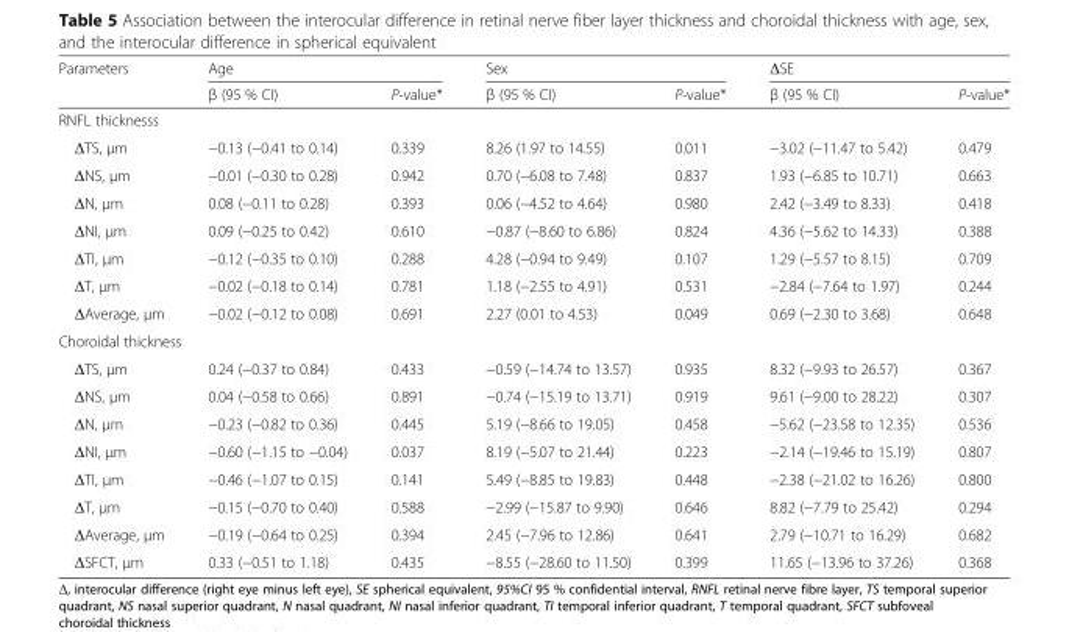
<table><thead><tr><td rowspan="2">Parameters</td><td colspan="2">Age</td><td colspan="2">Sex</td><td colspan="2">ΔSE</td></tr><tr><td>β (95 % CI)</td><td>P-value*</td><td>β (95 % CI)</td><td>P-value*</td><td>β (95 % CI)</td><td>P-value*</td></tr></thead><tbody><tr><td colspan="7">RNFL thicknesss</td></tr><tr><td>ΔTS, μm</td><td>−0.13 (−0.41 to 0.14)</td><td>0.339</td><td>8.26 (1.97 to 14.55)</td><td>0.011</td><td>−3.02 (−11.47 to 5.42)</td><td>0.479</td></tr><tr><td>ΔNS, μm</td><td>−0.01 (−0.30 to 0.28)</td><td>0.942</td><td>0.70 (−6.08 to 7.48)</td><td>0.837</td><td>1.93 (−6.85 to 10.71)</td><td>0.663</td></tr><tr><td>ΔN, μm</td><td>0.08 (−0.11 to 0.28)</td><td>0.393</td><td>0.06 (−4.52 to 4.64)</td><td>0.980</td><td>2.42 (−3.49 to 8.33)</td><td>0.418</td></tr><tr><td>ΔNI, μm</td><td>0.09 (−0.25 to 0.42)</td><td>0.610</td><td>−0.87 (−8.60 to 6.86)</td><td>0.824</td><td>4.36 (−5.62 to 14.33)</td><td>0.388</td></tr><tr><td>ΔTI, μm</td><td>−0.12 (−0.35 to 0.10)</td><td>0.288</td><td>4.28 (−0.94 to 9.49)</td><td>0.107</td><td>1.29 (−5.57 to 8.15)</td><td>0.709</td></tr><tr><td>ΔT, μm</td><td>−0.02 (−0.18 to 0.14)</td><td>0.781</td><td>1.18 (−2.55 to 4.91)</td><td>0.531</td><td>−2.84 (−7.64 to 1.97)</td><td>0.244</td></tr><tr><td>ΔAverage, μm</td><td>−0.02 (−0.12 to 0.08)</td><td>0.691</td><td>2.27 (0.01 to 4.53)</td><td>0.049</td><td>0.69 (−2.30 to 3.68)</td><td>0.648</td></tr><tr><td colspan="7">Choroidal thickness</td></tr><tr><td>ΔTS, μm</td><td>0.24 (−0.37 to 0.84)</td><td>0.433</td><td>−0.59 (−14.74 to 13.57)</td><td>0.935</td><td>8.32 (−9.93 to 26.57)</td><td>0.367</td></tr><tr><td>ΔNS, μm</td><td>0.04 (−0.58 to 0.66)</td><td>0.891</td><td>−0.74 (−15.19 to 13.71)</td><td>0.919</td><td>9.61 (−9.00 to 28.22)</td><td>0.307</td></tr><tr><td>ΔN, μm</td><td>−0.23 (−0.82 to 0.36)</td><td>0.445</td><td>5.19 (−8.66 to 19.05)</td><td>0.458</td><td>−5.62 (−23.58 to 12.35)</td><td>0.536</td></tr><tr><td>ΔNI, μm</td><td>−0.60 (−1.15 to −0.04)</td><td>0.037</td><td>8.19 (−5.07 to 21.44)</td><td>0.223</td><td>−2.14 (−19.46 to 15.19)</td><td>0.807</td></tr><tr><td>ΔTI, μm</td><td>−0.46 (−1.07 to 0.15)</td><td>0.141</td><td>5.49 (−8.85 to 19.83)</td><td>0.448</td><td>−2.38 (−21.02 to 16.26)</td><td>0.800</td></tr><tr><td>ΔT, μm</td><td>−0.15 (−0.70 to 0.40)</td><td>0.588</td><td>−2.99 (−15.87 to 9.90)</td><td>0.646</td><td>8.82 (−7.79 to 25.42)</td><td>0.294</td></tr><tr><td>ΔAverage, μm</td><td>−0.19 (−0.64 to 0.25)</td><td>0.394</td><td>2.45 (−7.96 to 12.86)</td><td>0.641</td><td>2.79 (−10.71 to 16.29)</td><td>0.682</td></tr><tr><td>ΔSFCT, μm</td><td>0.33 (−0.51 to 1.18)</td><td>0.435</td><td>−8.55 (−28.60 to 11.50)</td><td>0.399</td><td>11.65 (−13.96 to 37.26)</td><td>0.368</td></tr></tbody></table>